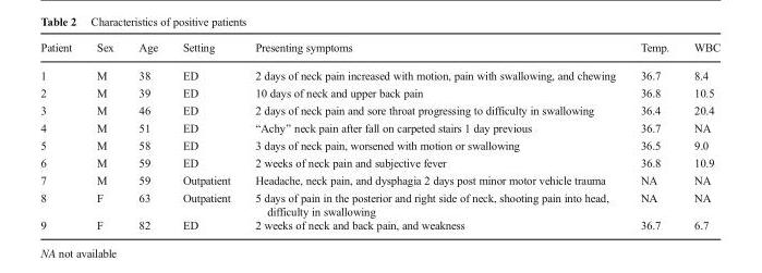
<table><thead><tr><td>Patient</td><td>Sex</td><td>Age</td><td>Setting</td><td>Presenting symptoms</td><td>Temp.</td><td>WBC</td></tr></thead><tbody><tr><td>1</td><td>M</td><td>38</td><td>ED</td><td>2 days of neck pain increased with motion, pain with swallowing, and chewing</td><td>36.7</td><td>8.4</td></tr><tr><td>2</td><td>M</td><td>39</td><td>ED</td><td>10 days of neck and upper back pain</td><td>36.8</td><td>10.5</td></tr><tr><td>3</td><td>M</td><td>46</td><td>ED</td><td>2 days of neck pain and sore throat progressing to difficulty in swallowing</td><td>36.4</td><td>20.4</td></tr><tr><td>4</td><td>M</td><td>51</td><td>ED</td><td>“Achy” neck pain after fall on carpeted stairs 1 day previous</td><td>36.7</td><td>NA</td></tr><tr><td>5</td><td>M</td><td>58</td><td>ED</td><td>3 days of neck pain, worsened with motion or swallowing</td><td>36.5</td><td>9.0</td></tr><tr><td>6</td><td>M</td><td>59</td><td>ED</td><td>2 weeks of neck pain and subjective fever</td><td>36.8</td><td>10.9</td></tr><tr><td>7</td><td>M</td><td>59</td><td>Outpatient</td><td>Headache, neck pain, and dysphagia 2 days post minor motor vehicle trauma</td><td>NA</td><td>NA</td></tr><tr><td>8</td><td>F</td><td>63</td><td>Outpatient</td><td>5 days of pain in the posterior and right side of neck, shooting pain into head, difficulty in swallowing</td><td>NA</td><td>NA</td></tr><tr><td>9</td><td>F</td><td>82</td><td>ED</td><td>2 weeks of neck and back pain, and weakness</td><td>36.7</td><td>6.7</td></tr></tbody></table>